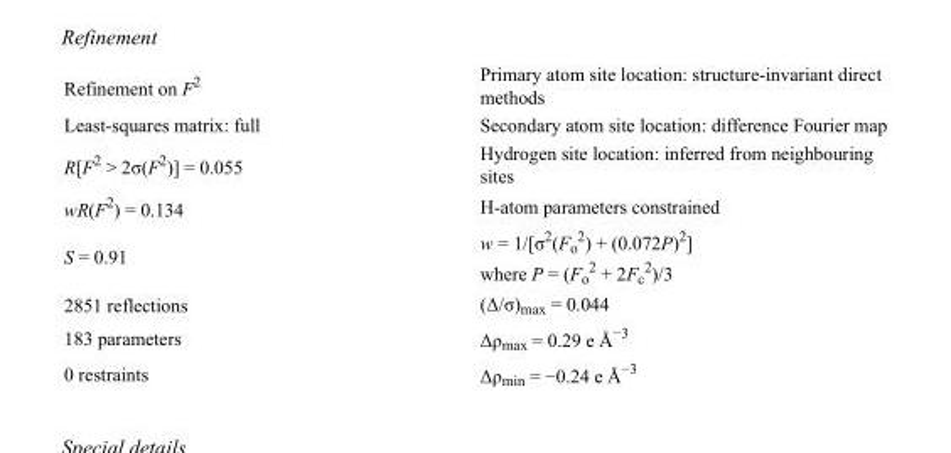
<table><tbody><tr><td>Refinement on F<sup>2</sup></td><td>Primary atom site location: structure-invariant direct methods</td></tr><tr><td>Least-squares matrix: full</td><td>Secondary atom site location: difference Fourier map</td></tr><tr><td>R[F<sup>2</sup> &gt; 2σ(F<sup>2</sup>)] = 0.055</td><td>Hydrogen site location: inferred from neighbouring sites</td></tr><tr><td>wR(F<sup>2</sup>) = 0.134</td><td>H-atom parameters constrained</td></tr><tr><td>S = 0.91</td><td>w = 1/[σ<sup>2</sup>(F<sub>o</sub> <sup>2</sup>) + (0.072P)<sup>2</sup>] where P = (F<sub>o</sub> <sup>2</sup> + 2F<sub>c</sub> <sup>2</sup>)/3</td></tr><tr><td>2851 reflections</td><td>(Δ/σ)<sub>max</sub> = 0.044</td></tr><tr><td>183 parameters</td><td>Δρ<sub>max</sub> = 0.29 e Å<sup>−3</sup></td></tr><tr><td>0 restraints</td><td>Δρ<sub>min</sub> = −0.24 e Å<sup>−3</sup></td></tr></tbody></table>